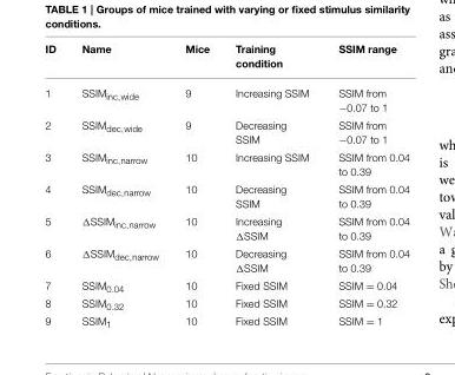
<table><thead><tr><td>ID</td><td>Name</td><td>Mice</td><td>Training condition</td><td>SSIM range</td></tr></thead><tbody><tr><td>1</td><td>SSIM<sub>inc,wide</sub></td><td>9</td><td>Increasing SSIM</td><td>SSIM from −0.07 to 1</td></tr><tr><td>2</td><td>SSIM<sub>dec,wide</sub></td><td>9</td><td>Decreasing SSIM</td><td>SSIM from −0.07 to 1</td></tr><tr><td>3</td><td>SSIM<sub>inc,narrow</sub></td><td>10</td><td>Increasing SSIM</td><td>SSIM from 0.04 to 0.39</td></tr><tr><td>4</td><td>SSIM<sub>dec,narrow</sub></td><td>10</td><td>Decreasing SSIM</td><td>SSIM from 0.04 to 0.39</td></tr><tr><td>5</td><td>ΔSSIM<sub>inc,narrow</sub></td><td>10</td><td>Increasing ΔSSIM</td><td>SSIM from 0.04 to 0.39</td></tr><tr><td>6</td><td>ΔSSIM<sub>dec,narrow</sub></td><td>10</td><td>Decreasing ΔSSIM</td><td>SSIM from 0.04 to 0.39</td></tr><tr><td>7</td><td>SSIM<sub>0.04</sub></td><td>10</td><td>Fixed SSIM</td><td>SSIM = 0.04</td></tr><tr><td>8</td><td>SSIM<sub>0.32</sub></td><td>10</td><td>Fixed SSIM</td><td>SSIM = 0.32</td></tr><tr><td>9</td><td>SSIM<sub>1</sub></td><td>10</td><td>Fixed SSIM</td><td>SSIM = 1</td></tr></tbody></table>